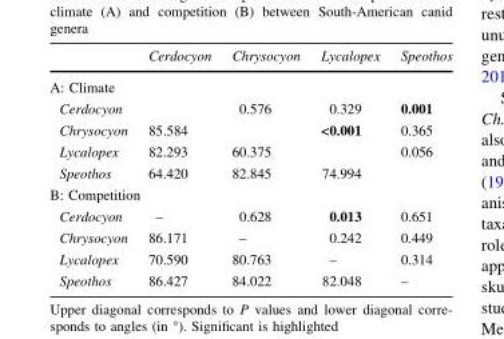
<table><thead><tr><td></td><td>Cerdocyon</td><td>Chrysocyon</td><td>Lycalopex</td><td>Speothos</td></tr></thead><tbody><tr><td colspan="5">A: Climate</td></tr><tr><td>Cerdocyon</td><td></td><td>0.576</td><td>0.329</td><td>0.001</td></tr><tr><td>Chrysocyon</td><td>85.584</td><td></td><td>&lt;0.001</td><td>0.365</td></tr><tr><td>Lycalopex</td><td>82.293</td><td>60.375</td><td></td><td>0.056</td></tr><tr><td>Speothos</td><td>64.420</td><td>82.845</td><td>74.994</td><td></td></tr><tr><td colspan="5">B: Competition</td></tr><tr><td>Cerdocyon</td><td>–</td><td>0.628</td><td>0.013</td><td>0.651</td></tr><tr><td>Chrysocyon</td><td>86.171</td><td>–</td><td>0.242</td><td>0.449</td></tr><tr><td>Lycalopex</td><td>70.590</td><td>80.763</td><td>–</td><td>0.314</td></tr><tr><td>Speothos</td><td>86.427</td><td>84.022</td><td>82.048</td><td>–</td></tr></tbody></table>